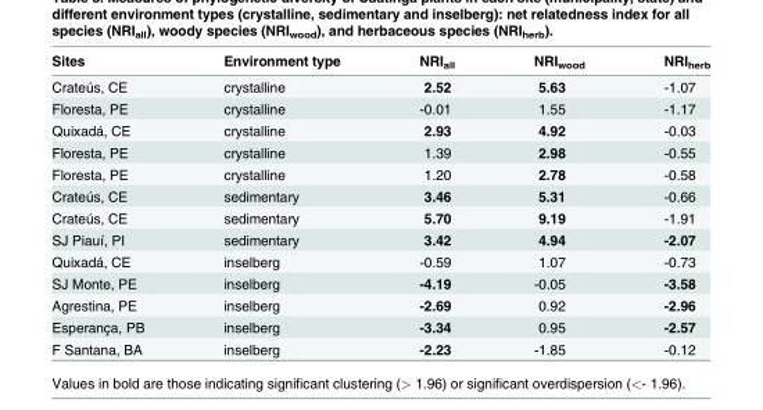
<table><thead><tr><td>Sites</td><td>Environment type</td><td>NRI<sub>all</sub></td><td>NRI<sub>wood</sub></td><td>NRI<sub>herb</sub></td></tr></thead><tbody><tr><td>Crateús, CE</td><td>crystalline</td><td>2.52</td><td>5.63</td><td>-1.07</td></tr><tr><td>Floresta, PE</td><td>crystalline</td><td>-0.01</td><td>1.55</td><td>-1.17</td></tr><tr><td>Quixadá, CE</td><td>crystalline</td><td>2.93</td><td>4.92</td><td>-0.03</td></tr><tr><td>Floresta, PE</td><td>crystalline</td><td>1.39</td><td>2.98</td><td>-0.55</td></tr><tr><td>Floresta, PE</td><td>crystalline</td><td>1.20</td><td>2.78</td><td>-0.58</td></tr><tr><td>Crateús, CE</td><td>sedimentary</td><td>3.46</td><td>5.31</td><td>-0.66</td></tr><tr><td>Crateús, CE</td><td>sedimentary</td><td>5.70</td><td>9.19</td><td>-1.91</td></tr><tr><td>SJ Piauí, PI</td><td>sedimentary</td><td>3.42</td><td>4.94</td><td>-2.07</td></tr><tr><td>Quixadá, CE</td><td>inselberg</td><td>-0.59</td><td>1.07</td><td>-0.73</td></tr><tr><td>SJ Monte, PE</td><td>inselberg</td><td>-4.19</td><td>-0.05</td><td>-3.58</td></tr><tr><td>Agrestina, PE</td><td>inselberg</td><td>-2.69</td><td>0.92</td><td>-2.96</td></tr><tr><td>Esperança, PB</td><td>inselberg</td><td>-3.34</td><td>0.95</td><td>-2.57</td></tr><tr><td>F Santana, BA</td><td>inselberg</td><td>-2.23</td><td>-1.85</td><td>-0.12</td></tr></tbody></table>